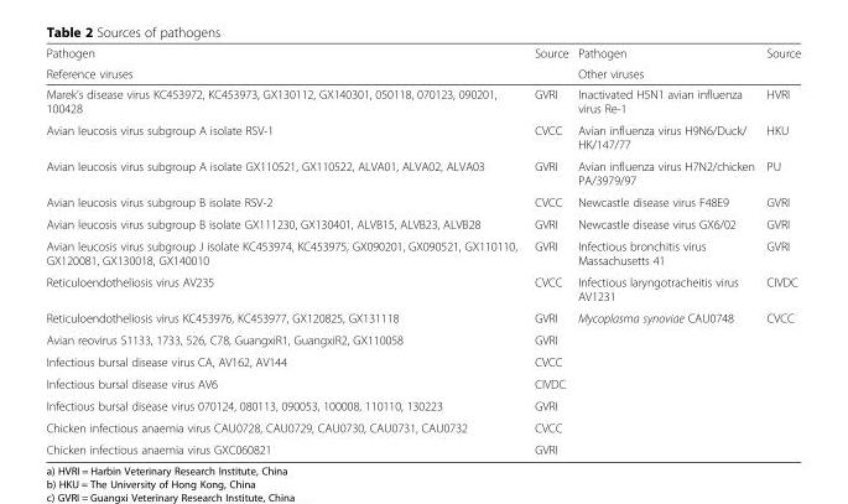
<table><thead><tr><td rowspan="2">Pathogen Reference viruses</td><td rowspan="2">Source</td><td rowspan="2">Pathogen Other viruses</td><td rowspan="2">Source</td></tr><tr></tr></thead><tbody><tr><td>Marek’s disease virus KC453972, KC453973, GX130112, GX140301, 050118, 070123, 090201, 100428</td><td>GVRI</td><td>Inactivated H5N1 avian influenza virus Re-1</td><td>HVRI</td></tr><tr><td>Avian leucosis virus subgroup A isolate RSV-1</td><td>CVCC</td><td>Avian influenza virus H9N6/Duck/ HK/147/77</td><td>HKU</td></tr><tr><td>Avian leucosis virus subgroup A isolate GX110521, GX110522, ALVA01, ALVA02, ALVA03</td><td>GVRI</td><td>Avian influenza virus H7N2/chicken PA/3979/97</td><td>PU</td></tr><tr><td>Avian leucosis virus subgroup B isolate RSV-2</td><td>CVCC</td><td>Newcastle disease virus F48E9</td><td>GVRI</td></tr><tr><td>Avian leucosis virus subgroup B isolate GX111230, GX130401, ALVB15, ALVB23, ALVB28</td><td>GVRI</td><td>Newcastle disease virus GX6/02</td><td>GVRI</td></tr><tr><td>Avian leucosis virus subgroup J isolate KC453974, KC453975, GX090201, GX090521, GX110110, GX120081, GX130018, GX140010</td><td>GVRI</td><td>Infectious bronchitis virus Massachusetts 41</td><td>GVRI</td></tr><tr><td>Reticuloendotheliosis virus AV235</td><td>CVCC</td><td>Infectious laryngotracheitis virus AV1231</td><td>CIVDC</td></tr><tr><td>Reticuloendotheliosis virus KC453976, KC453977, GX120825, GX131118</td><td>GVRI</td><td>Mycoplasma synoviae CAU0748</td><td>CVCC</td></tr><tr><td>Avian reovirus S1133, 1733, 526, C78, GuangxiR1, GuangxiR2, GX110058</td><td>GVRI</td><td></td><td></td></tr><tr><td>Infectious bursal disease virus CA, AV162, AV144</td><td>CVCC</td><td></td><td></td></tr><tr><td>Infectious bursal disease virus AV6</td><td>CIVDC</td><td></td><td></td></tr><tr><td>Infectious bursal disease virus 070124, 080113, 090053, 100008, 110110, 130223</td><td>GVRI</td><td></td><td></td></tr><tr><td>Chicken infectious anaemia virus CAU0728, CAU0729, CAU0730, CAU0731, CAU0732</td><td>CVCC</td><td></td><td></td></tr><tr><td>Chicken infectious anaemia virus GXC060821</td><td>GVRI</td><td></td><td></td></tr></tbody></table>